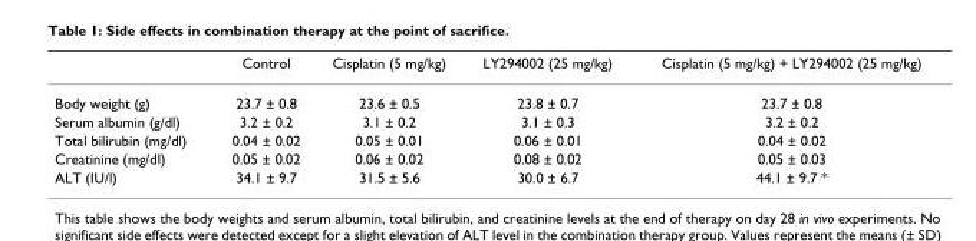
<table><thead><tr><td></td><td>Control</td><td>Cisplatin (5 mg/kg)</td><td>LY294002 (25 mg/kg)</td><td>Cisplatin (5 mg/kg) + LY294002 (25 mg/kg)</td></tr></thead><tbody><tr><td>Body weight (g)</td><td>23.7 ± 0.8</td><td>23.6 ± 0.5</td><td>23.8 ± 0.7</td><td>23.7 ± 0.8</td></tr><tr><td>Serum albumin (g/dl)</td><td>3.2 ± 0.2</td><td>3.1 ± 0.2</td><td>3.1 ± 0.3</td><td>3.2 ± 0.2</td></tr><tr><td>Total bilirubin (mg/dl)</td><td>0.04 ± 0.02</td><td>0.05 ± 0.01</td><td>0.06 ± 0.01</td><td>0.04 ± 0.02</td></tr><tr><td>Creatinine (mg/dl)</td><td>0.05 ± 0.02</td><td>0.06 ± 0.02</td><td>0.08 ± 0.02</td><td>0.05 ± 0.03</td></tr><tr><td>ALT (IU/l)</td><td>34.1 ± 9.7</td><td>31.5 ± 5.6</td><td>30.0 ± 6.7</td><td>44.1 ± 9.7 *</td></tr></tbody></table>